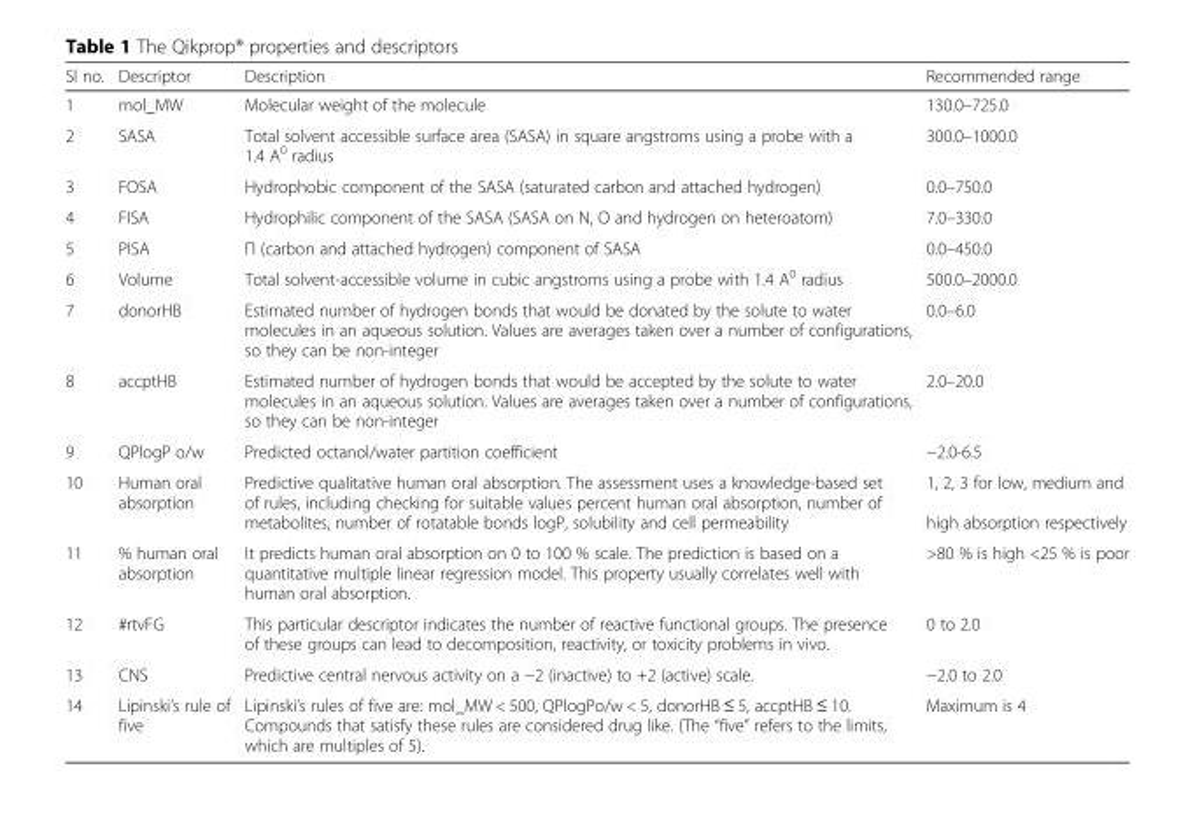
<table><thead><tr><td>Sl no.</td><td>Descriptor</td><td>Description</td><td>Recommended range</td></tr></thead><tbody><tr><td>1</td><td>mol_MW</td><td>Molecular weight of the molecule</td><td>130.0–725.0</td></tr><tr><td>2</td><td>SASA</td><td>Total solvent accessible surface area (SASA) in square angstroms using a probe with a 1.4 A<sup>0</sup> radius</td><td>300.0–1000.0</td></tr><tr><td>3</td><td>FOSA</td><td>Hydrophobic component of the SASA (saturated carbon and attached hydrogen)</td><td>0.0–750.0</td></tr><tr><td>4</td><td>FISA</td><td>Hydrophilic component of the SASA (SASA on N, O and hydrogen on heteroatom)</td><td>7.0–330.0</td></tr><tr><td>5</td><td>PISA</td><td>Π (carbon and attached hydrogen) component of SASA</td><td>0.0–450.0</td></tr><tr><td>6</td><td>Volume</td><td>Total solvent-accessible volume in cubic angstroms using a probe with 1.4 A<sup>0</sup> radius</td><td>500.0–2000.0</td></tr><tr><td>7</td><td>donorHB</td><td>Estimated number of hydrogen bonds that would be donated by the solute to water molecules in an aqueous solution. Values are averages taken over a number of configurations, so they can be non-integer</td><td>0.0–6.0</td></tr><tr><td>8</td><td>accptHB</td><td>Estimated number of hydrogen bonds that would be accepted by the solute to water molecules in an aqueous solution. Values are averages taken over a number of configurations, so they can be non-integer</td><td>2.0–20.0</td></tr><tr><td>9</td><td>QPlogP o/w</td><td>Predicted octanol/water partition coefficient</td><td>−2.0-6.5</td></tr><tr><td>10</td><td>Human oral absorption</td><td>Predictive qualitative human oral absorption. The assessment uses a knowledge-based set of rules, including checking for suitable values percent human oral absorption, number of metabolites, number of rotatable bonds logP, solubility and cell permeability</td><td>1, 2, 3 for low, medium and high absorption respectively</td></tr><tr><td>11</td><td>% human oral absorption</td><td>It predicts human oral absorption on 0 to 100 % scale. The prediction is based on a quantitative multiple linear regression model. This property usually correlates well with human oral absorption.</td><td>&gt;80 % is high &lt;25 % is poor</td></tr><tr><td>12</td><td>#rtvFG</td><td>This particular descriptor indicates the number of reactive functional groups. The presence of these groups can lead to decomposition, reactivity, or toxicity problems in vivo.</td><td>0 to 2.0</td></tr><tr><td>13</td><td>CNS</td><td>Predictive central nervous activity on a −2 (inactive) to +2 (active) scale.</td><td>−2.0 to 2.0</td></tr><tr><td>14</td><td>Lipinski’s rule of five</td><td>Lipinski’s rules of five are: mol_MW &lt; 500, QPlogPo/w &lt; 5, donorHB ≤ 5, accptHB ≤ 10. Compounds that satisfy these rules are considered drug like. (The “five” refers to the limits, which are multiples of 5).</td><td>Maximum is 4</td></tr></tbody></table>